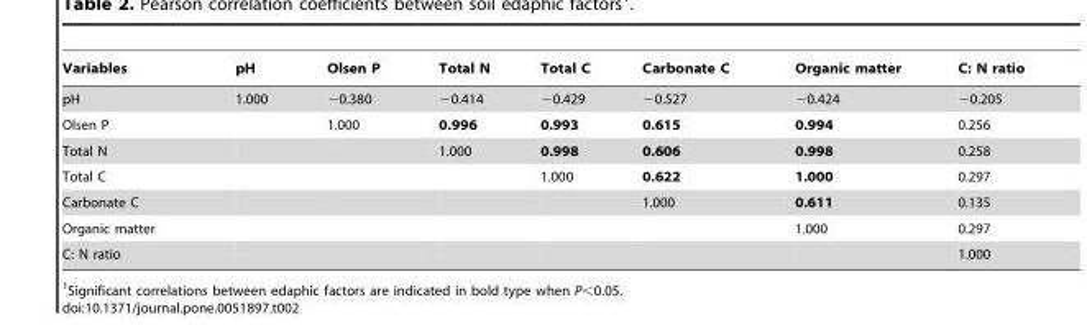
<table><thead><tr><td>Variables</td><td>pH</td><td>Olsen P</td><td>Total N</td><td>Total C</td><td>Carbonate C</td><td>Organic matter</td><td>C: N ratio</td></tr></thead><tbody><tr><td>pH</td><td>1.000</td><td>−0.380</td><td>−0.414</td><td>−0.429</td><td>−0.527</td><td>−0.424</td><td>−0.205</td></tr><tr><td>Olsen P</td><td></td><td>1.000</td><td>0.996</td><td>0.993</td><td>0.615</td><td>0.994</td><td>0.256</td></tr><tr><td>Total N</td><td></td><td></td><td>1.000</td><td>0.998</td><td>0.606</td><td>0.998</td><td>0.258</td></tr><tr><td>Total C</td><td></td><td></td><td></td><td>1.000</td><td>0.622</td><td>1.000</td><td>0.297</td></tr><tr><td>Carbonate C</td><td></td><td></td><td></td><td></td><td>1.000</td><td>0.611</td><td>0.135</td></tr><tr><td>Organic matter</td><td></td><td></td><td></td><td></td><td></td><td>1.000</td><td>0.297</td></tr><tr><td>C: N ratio</td><td></td><td></td><td></td><td></td><td></td><td></td><td>1.000</td></tr></tbody></table>